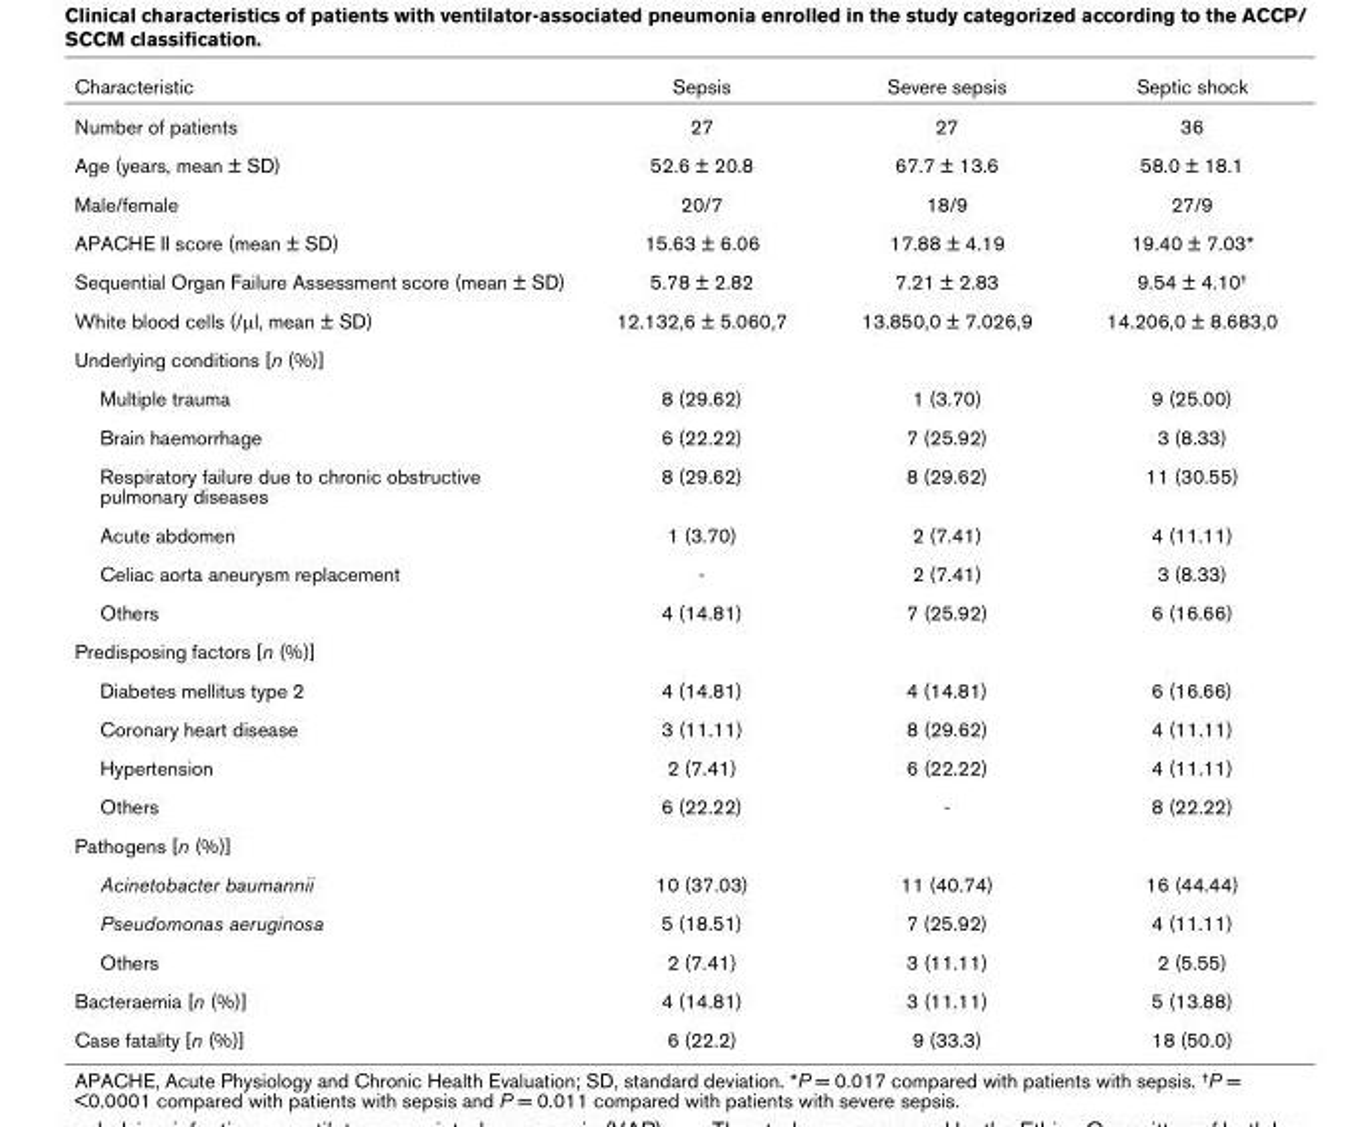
<table><thead><tr><td>Characteristic</td><td>Sepsis</td><td>Severe sepsis</td><td>Septic shock</td></tr></thead><tbody><tr><td>Number of patients</td><td>27</td><td>27</td><td>36</td></tr><tr><td>Age (years, mean ± SD)</td><td>52.6 ± 20.8</td><td>67.7 ± 13.6</td><td>58.0 ± 18.1</td></tr><tr><td>Male/female</td><td>20/7</td><td>18/9</td><td>27/9</td></tr><tr><td>APACHE II score (mean ± SD)</td><td>15.63 ± 6.06</td><td>17.88 ± 4.19</td><td>19.40 ± 7.03*</td></tr><tr><td>Sequential Organ Failure Assessment score (mean ± SD)</td><td>5.78 ± 2.82</td><td>7.21 ± 2.83</td><td>9.54 ± 4.10†</td></tr><tr><td>White blood cells (/μl, mean ± SD)</td><td>12.132,6 ± 5.060,7</td><td>13.850,0 ± 7.026,9</td><td>14.206,0 ± 8.683,0</td></tr><tr><td colspan="4">Underlying conditions [n (%)]</td></tr><tr><td>Multiple trauma</td><td>8 (29.62)</td><td>1 (3.70)</td><td>9 (25.00)</td></tr><tr><td>Brain haemorrhage</td><td>6 (22.22)</td><td>7 (25.92)</td><td>3 (8.33)</td></tr><tr><td>Respiratory failure due to chronic obstructive pulmonary diseases</td><td>8 (29.62)</td><td>8 (29.62)</td><td>11 (30.55)</td></tr><tr><td>Acute abdomen</td><td>1 (3.70)</td><td>2 (7.41)</td><td>4 (11.11)</td></tr><tr><td>Celiac aorta aneurysm replacement</td><td>-</td><td>2 (7.41)</td><td>3 (8.33)</td></tr><tr><td>Others</td><td>4 (14.81)</td><td>7 (25.92)</td><td>6 (16.66)</td></tr><tr><td colspan="4">Predisposing factors [n (%)]</td></tr><tr><td>Diabetes mellitus type 2</td><td>4 (14.81)</td><td>4 (14.81)</td><td>6 (16.66)</td></tr><tr><td>Coronary heart disease</td><td>3 (11.11)</td><td>8 (29.62)</td><td>4 (11.11)</td></tr><tr><td>Hypertension</td><td>2 (7.41)</td><td>6 (22.22)</td><td>4 (11.11)</td></tr><tr><td>Others</td><td>6 (22.22)</td><td>-</td><td>8 (22.22)</td></tr><tr><td colspan="4">Pathogens [n (%)]</td></tr><tr><td>Acinetobacter baumannii</td><td>10 (37.03)</td><td>11 (40.74)</td><td>16 (44.44)</td></tr><tr><td>Pseudomonas aeruginosa</td><td>5 (18.51)</td><td>7 (25.92)</td><td>4 (11.11)</td></tr><tr><td>Others</td><td>2 (7.41)</td><td>3 (11.11)</td><td>2 (5.55)</td></tr><tr><td>Bacteraemia [n (%)]</td><td>4 (14.81)</td><td>3 (11.11)</td><td>5 (13.88)</td></tr><tr><td>Case fatality [n (%)]</td><td>6 (22.2)</td><td>9 (33.3)</td><td>18 (50.0)</td></tr></tbody></table>